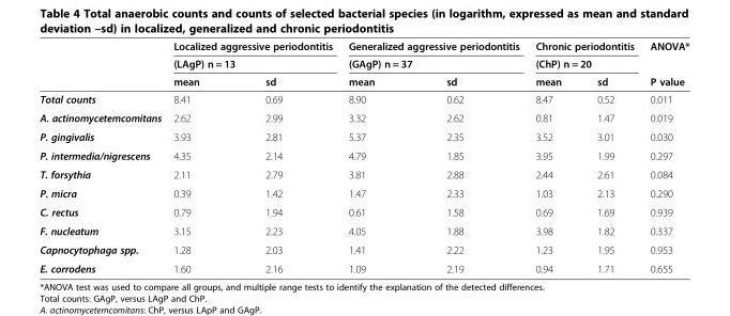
<table><thead><tr><td rowspan="3"></td><td rowspan="2" colspan="2">Localized aggressive periodontitis (LAgP) n = 13</td><td rowspan="2" colspan="2">Generalized aggressive periodontitis (GAgP) n = 37</td><td rowspan="2" colspan="2">Chronic periodontitis (ChP) n = 20</td><td rowspan="3">ANOVA* P value</td></tr><tr></tr><tr><td>mean</td><td>sd</td><td>mean</td><td>sd</td><td>mean</td><td>sd</td></tr></thead><tbody><tr><td>Total counts</td><td>8.41</td><td>0.69</td><td>8.90</td><td>0.62</td><td>8.47</td><td>0.52</td><td>0.011</td></tr><tr><td>A. actinomycetemcomitans</td><td>2.62</td><td>2.99</td><td>3.32</td><td>2.62</td><td>0.81</td><td>1.47</td><td>0.019</td></tr><tr><td>P. gingivalis</td><td>3.93</td><td>2.81</td><td>5.37</td><td>2.35</td><td>3.52</td><td>3.01</td><td>0.030</td></tr><tr><td>P. intermedia/nigrescens</td><td>4.35</td><td>2.14</td><td>4.79</td><td>1.85</td><td>3.95</td><td>1.99</td><td>0.297</td></tr><tr><td>T. forsythia</td><td>2.11</td><td>2.79</td><td>3.81</td><td>2.88</td><td>2.44</td><td>2.61</td><td>0.084</td></tr><tr><td>P. micra</td><td>0.39</td><td>1.42</td><td>1.47</td><td>2.33</td><td>1.03</td><td>2.13</td><td>0.290</td></tr><tr><td>C. rectus</td><td>0.79</td><td>1.94</td><td>0.61</td><td>1.58</td><td>0.69</td><td>1.69</td><td>0.939</td></tr><tr><td>F. nucleatum</td><td>3.15</td><td>2.23</td><td>4.05</td><td>1.88</td><td>3.98</td><td>1.82</td><td>0.337</td></tr><tr><td>Capnocytophaga spp.</td><td>1.28</td><td>2.03</td><td>1.41</td><td>2.22</td><td>1.23</td><td>1.95</td><td>0.953</td></tr><tr><td>E. corrodens</td><td>1.60</td><td>2.16</td><td>1.09</td><td>2.19</td><td>0.94</td><td>1.71</td><td>0.655</td></tr></tbody></table>